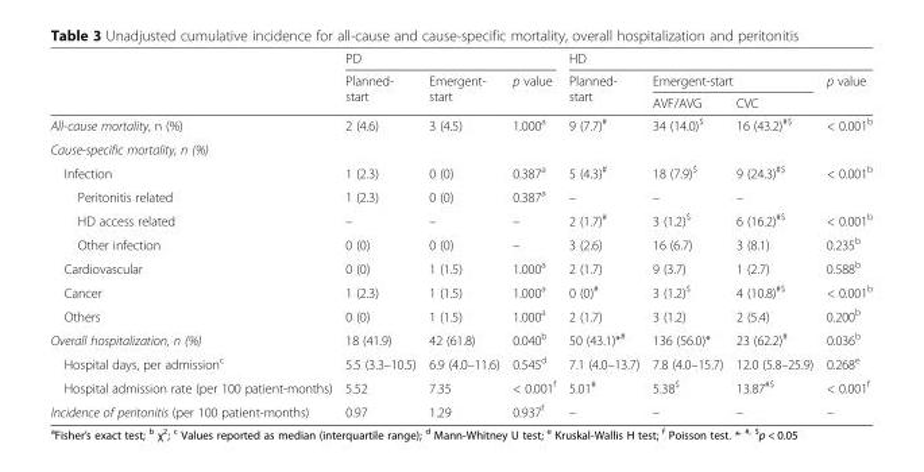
<table><thead><tr><td rowspan="3"></td><td colspan="3">PD</td><td colspan="4">HD</td></tr><tr><td rowspan="2">Planned- start</td><td rowspan="2">Emergent- start</td><td rowspan="2">p value</td><td rowspan="2">Planned- start</td><td colspan="2">Emergent-start</td><td rowspan="2">p value</td></tr><tr><td>AVF/AVG</td><td>CVC</td></tr></thead><tbody><tr><td>All-cause mortality, n (%)</td><td>2 (4.6)</td><td>3 (4.5)</td><td>1.000<sup>a</sup></td><td>9 (7.7)<sup>#</sup></td><td>34 (14.0)<sup>$</sup></td><td>16 (43.2)<sup>#$</sup></td><td>&lt; 0.001<sup>b</sup></td></tr><tr><td colspan="8">Cause-specific mortality, n (%)</td></tr><tr><td>Infection</td><td>1 (2.3)</td><td>0 (0)</td><td>0.387<sup>a</sup></td><td>5 (4.3)<sup>#</sup></td><td>18 (7.9)<sup>$</sup></td><td>9 (24.3)<sup>#$</sup></td><td>&lt; 0.001<sup>b</sup></td></tr><tr><td>Peritonitis related</td><td>1 (2.3)</td><td>0 (0)</td><td>0.387<sup>a</sup></td><td>–</td><td>–</td><td>–</td><td></td></tr><tr><td>HD access related</td><td>–</td><td>–</td><td>–</td><td>2 (1.7)<sup>#</sup></td><td>3 (1.2)<sup>$</sup></td><td>6 (16.2)<sup>#$</sup></td><td>&lt; 0.001<sup>b</sup></td></tr><tr><td>Other infection</td><td>0 (0)</td><td>0 (0)</td><td>–</td><td>3 (2.6)</td><td>16 (6.7)</td><td>3 (8.1)</td><td>0.235<sup>b</sup></td></tr><tr><td>Cardiovascular</td><td>0 (0)</td><td>1 (1.5)</td><td>1.000<sup>a</sup></td><td>2 (1.7)</td><td>9 (3.7)</td><td>1 (2.7)</td><td>0.588<sup>b</sup></td></tr><tr><td>Cancer</td><td>1 (2.3)</td><td>1 (1.5)</td><td>1.000<sup>a</sup></td><td>0 (0)<sup>#</sup></td><td>3 (1.2)<sup>$</sup></td><td>4 (10.8)<sup>#$</sup></td><td>&lt; 0.001<sup>b</sup></td></tr><tr><td>Others</td><td>0 (0)</td><td>1 (1.5)</td><td>1.000<sup>a</sup></td><td>2 (1.7)</td><td>3 (1.2)</td><td>2 (5.4)</td><td>0.200<sup>b</sup></td></tr><tr><td>Overall hospitalization, n (%)</td><td>18 (41.9)</td><td>42 (61.8)</td><td>0.040<sup>b</sup></td><td>50 (43.1)*<sup>#</sup></td><td>136 (56.0)*</td><td>23 (62.2)<sup>#</sup></td><td>0.036<sup>b</sup></td></tr><tr><td>Hospital days, per admission<sup>c</sup></td><td>5.5 (3.3–10.5)</td><td>6.9 (4.0–11.6)</td><td>0.545<sup>d</sup></td><td>7.1 (4.0–13.7)</td><td>7.8 (4.0–15.7)</td><td>12.0 (5.8–25.9)</td><td>0.268<sup>e</sup></td></tr><tr><td>Hospital admission rate (per 100 patient-months)</td><td>5.52</td><td>7.35</td><td>&lt; 0.001<sup>f</sup></td><td>5.01<sup>#</sup></td><td>5.38<sup>$</sup></td><td>13.87<sup>#$</sup></td><td>&lt; 0.001<sup>f</sup></td></tr><tr><td>Incidence of peritonitis (per 100 patient-months)</td><td>0.97</td><td>1.29</td><td>0.937<sup>f</sup></td><td>–</td><td>–</td><td>–</td><td>–</td></tr></tbody></table>